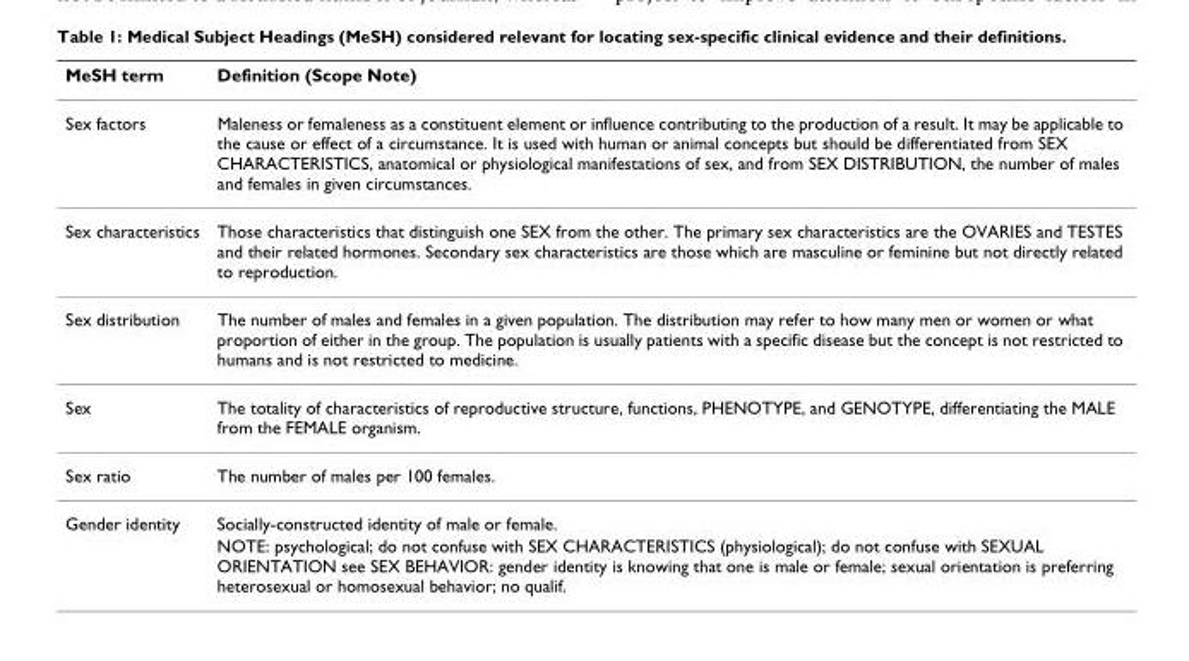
<table><thead><tr><td>MeSH term</td><td>Definition (Scope Note)</td></tr></thead><tbody><tr><td>Sex factors</td><td>Maleness or femaleness as a constituent element or influence contributing to the production of a result. It may be applicable to the cause or effect of a circumstance. It is used with human or animal concepts but should be differentiated from SEX CHARACTERISTICS, anatomical or physiological manifestations of sex, and from SEX DISTRIBUTION, the number of males and females in given circumstances.</td></tr><tr><td>Sex characteristics</td><td>Those characteristics that distinguish one SEX from the other. The primary sex characteristics are the OVARIES and TESTES and their related hormones. Secondary sex characteristics are those which are masculine or feminine but not directly related to reproduction.</td></tr><tr><td>Sex distribution</td><td>The number of males and females in a given population. The distribution may refer to how many men or women or what proportion of either in the group. The population is usually patients with a specific disease but the concept is not restricted to humans and is not restricted to medicine.</td></tr><tr><td>Sex</td><td>The totality of characteristics of reproductive structure, functions, PHENOTYPE, and GENOTYPE, differentiating the MALE from the FEMALE organism.</td></tr><tr><td>Sex ratio</td><td>The number of males per 100 females.</td></tr><tr><td rowspan="2">Gender identity</td><td>Socially-constructed identity of male or female.</td></tr><tr><td>NOTE: psychological; do not confuse with SEX CHARACTERISTICS (physiological); do not confuse with SEXUAL ORIENTATION see SEX BEHAVIOR: gender identity is knowing that one is male or female; sexual orientation is preferring heterosexual or homosexual behavior; no qualif.</td></tr></tbody></table>